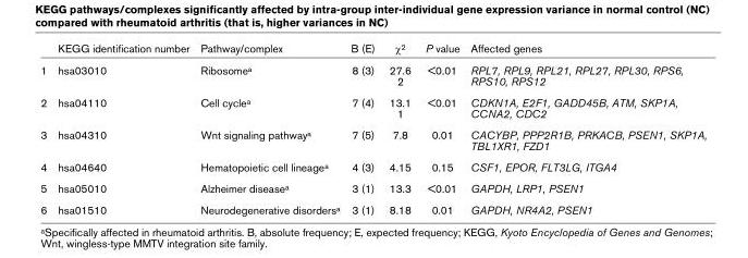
<table><thead><tr><td></td><td>KEGG identification number</td><td>Pathway/complex</td><td>B (E)</td><td>χ<sup>2</sup></td><td>P value</td><td>Affected genes</td></tr></thead><tbody><tr><td>1</td><td>hsa03010</td><td>Ribosome<sup>a</sup></td><td>8 (3)</td><td>27.6 2</td><td>&lt;0.01</td><td>RPL7, RPL9, RPL21, RPL27, RPL30, RPS6, RPS10, RPS12</td></tr><tr><td>2</td><td>hsa04110</td><td>Cell cycle<sup>a</sup></td><td>7 (4)</td><td>13.1 1</td><td>&lt;0.01</td><td>CDKN1A, E2F1, GADD45B, ATM, SKP1A, CCNA2, CDC2</td></tr><tr><td>3</td><td>hsa04310</td><td>Wnt signaling pathway<sup>a</sup></td><td>7 (5)</td><td>7.8</td><td>0.01</td><td>CACYBP, PPP2R1B, PRKACB, PSEN1, SKP1A, TBL1XR1, FZD1</td></tr><tr><td>4</td><td>hsa04640</td><td>Hematopoietic cell lineage<sup>a</sup></td><td>4 (3)</td><td>4.15</td><td>0.15</td><td>CSF1, EPOR, FLT3LG, ITGA4</td></tr><tr><td>5</td><td>hsa05010</td><td>Alzheimer disease<sup>a</sup></td><td>3 (1)</td><td>13.3</td><td>&lt;0.01</td><td>GAPDH, LRP1, PSEN1</td></tr><tr><td>6</td><td>hsa01510</td><td>Neurodegenerative disorders<sup>a</sup></td><td>3 (1)</td><td>8.18</td><td>0.01</td><td>GAPDH, NR4A2, PSEN1</td></tr></tbody></table>